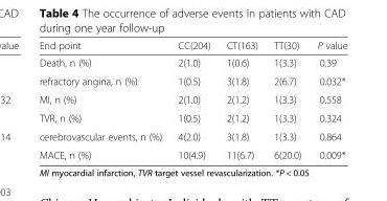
<table><thead><tr><td>End point</td><td>CC(204)</td><td>CT(163)</td><td>TT(30)</td><td>P value</td></tr></thead><tbody><tr><td>Death, n (%)</td><td>2(1.0)</td><td>1(0.6)</td><td>1(3.3)</td><td>0.39</td></tr><tr><td>refractory angina, n (%)</td><td>1(0.5)</td><td>3(1.8)</td><td>2(6.7)</td><td>0.032*</td></tr><tr><td>MI, n (%)</td><td>2(1.0)</td><td>2(1.2)</td><td>1(3.3)</td><td>0.558</td></tr><tr><td>TVR, n (%)</td><td>1(0.5)</td><td>2(1.2)</td><td>1(3.3)</td><td>0.324</td></tr><tr><td>cerebrovascular events, n (%)</td><td>4(2.0)</td><td>3(1.8)</td><td>1(3.3)</td><td>0.864</td></tr><tr><td>MACE, n (%)</td><td>10(4.9)</td><td>11(6.7)</td><td>6(20.0)</td><td>0.009*</td></tr></tbody></table>